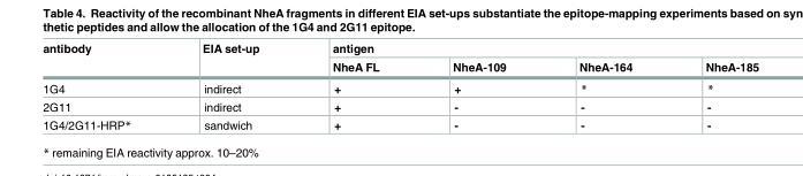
<table><thead><tr><td rowspan="2">antibody</td><td rowspan="2">EIA set-up</td><td colspan="4">antigen</td></tr><tr><td>NheA FL</td><td>NheA-109</td><td>NheA-164</td><td>NheA-185</td></tr></thead><tbody><tr><td>1G4</td><td>indirect</td><td>+</td><td>+</td><td>*</td><td>*</td></tr><tr><td>2G11</td><td>indirect</td><td>+</td><td>-</td><td>-</td><td>-</td></tr><tr><td>1G4/2G11-HRP*</td><td>sandwich</td><td>+</td><td>-</td><td>-</td><td>-</td></tr></tbody></table>